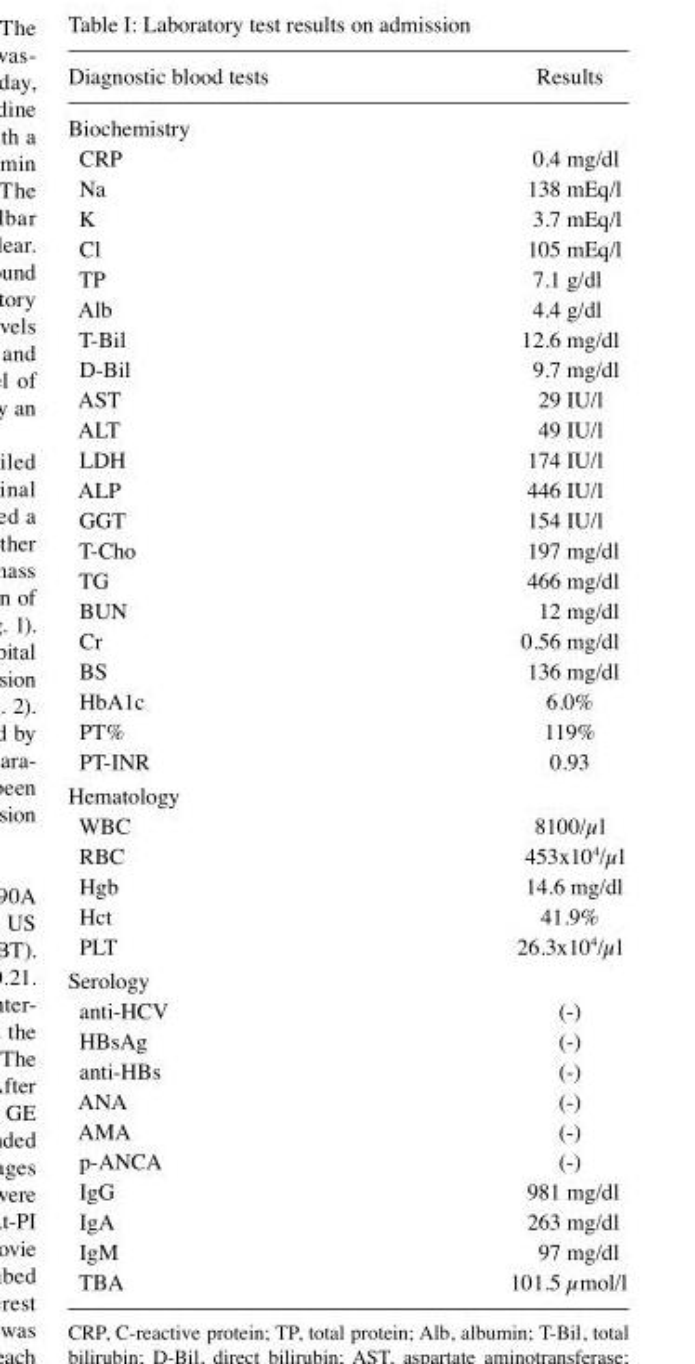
<table><thead><tr><td>Diagnostic blood tests</td><td>Results</td></tr></thead><tbody><tr><td colspan="2">Biochemistry</td></tr><tr><td>CRP</td><td>0.4 mg/dl</td></tr><tr><td>Na</td><td>138 mEq/l</td></tr><tr><td>K</td><td>3.7 mEq/l</td></tr><tr><td>Cl</td><td>105 mEq/l</td></tr><tr><td>TP</td><td>7.1 g/dl</td></tr><tr><td>Alb</td><td>4.4 g/dl</td></tr><tr><td>T-Bil</td><td>12.6 mg/dl</td></tr><tr><td>D-Bil</td><td>9.7 mg/dl</td></tr><tr><td>AST</td><td>29 IU/l</td></tr><tr><td>ALT</td><td>49 IU/l</td></tr><tr><td>LDH</td><td>174 IU/l</td></tr><tr><td>ALP</td><td>446 IU/l</td></tr><tr><td>GGT</td><td>154 IU/l</td></tr><tr><td>T-Cho</td><td>197 mg/dl</td></tr><tr><td>TG</td><td>466 mg/dl</td></tr><tr><td>BUN</td><td>12 mg/dl</td></tr><tr><td>Cr</td><td>0.56 mg/dl</td></tr><tr><td>BS</td><td>136 mg/dl</td></tr><tr><td>HbA1c</td><td>6.0%</td></tr><tr><td>PT%</td><td>119%</td></tr><tr><td>PT-INR</td><td>0.93</td></tr><tr><td colspan="2">Hematology</td></tr><tr><td>WBC</td><td>8100/µl</td></tr><tr><td>RBC</td><td>453x104/µl</td></tr><tr><td>Hgb</td><td>14.6 mg/dl</td></tr><tr><td>Hct</td><td>41.9%</td></tr><tr><td>PLT</td><td>26.3x104/µl</td></tr><tr><td colspan="2">Serology</td></tr><tr><td>anti-HCV</td><td>(-)</td></tr><tr><td>HBsAg</td><td>(-)</td></tr><tr><td>anti-HBs</td><td>(-)</td></tr><tr><td>ANA</td><td>(-)</td></tr><tr><td>AMA</td><td>(-)</td></tr><tr><td>p-ANCA</td><td>(-)</td></tr><tr><td>IgG</td><td>981 mg/dl</td></tr><tr><td>IgA</td><td>263 mg/dl</td></tr><tr><td>IgM</td><td>97 mg/dl</td></tr><tr><td>TBA</td><td>101.5 µmol/l</td></tr></tbody></table>